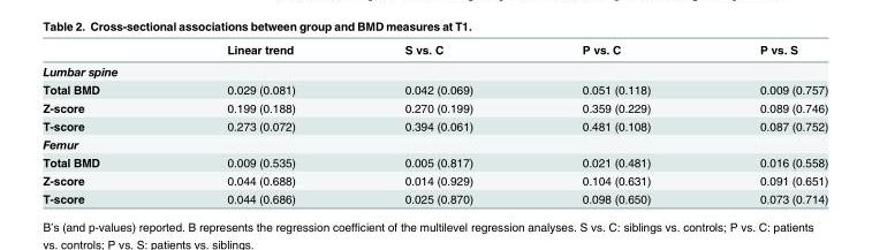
<table><thead><tr><td></td><td>Linear trend</td><td>S vs. C</td><td>P vs. C</td><td>P vs. S</td></tr></thead><tbody><tr><td colspan="5">Lumbar spine</td></tr><tr><td>Total BMD</td><td>0.029 (0.081)</td><td>0.042 (0.069)</td><td>0.051 (0.118)</td><td>0.009 (0.757)</td></tr><tr><td>Z-score</td><td>0.199 (0.188)</td><td>0.270 (0.199)</td><td>0.359 (0.229)</td><td>0.089 (0.746)</td></tr><tr><td>T-score</td><td>0.273 (0.072)</td><td>0.394 (0.061)</td><td>0.481 (0.108)</td><td>0.087 (0.752)</td></tr><tr><td colspan="5">Femur</td></tr><tr><td>Total BMD</td><td>0.009 (0.535)</td><td>0.005 (0.817)</td><td>0.021 (0.481)</td><td>0.016 (0.558)</td></tr><tr><td>Z-score</td><td>0.044 (0.688)</td><td>0.014 (0.929)</td><td>0.104 (0.631)</td><td>0.091 (0.651)</td></tr><tr><td>T-score</td><td>0.044 (0.686)</td><td>0.025 (0.870)</td><td>0.098 (0.650)</td><td>0.073 (0.714)</td></tr></tbody></table>